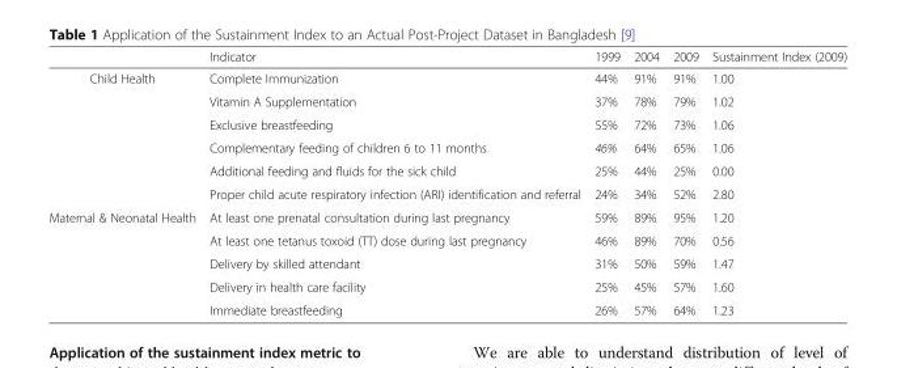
<table><thead><tr><td></td><td>Indicator</td><td>1999</td><td>2004</td><td>2009</td><td>Sustainment Index (2009)</td></tr></thead><tbody><tr><td rowspan="6">Child Health</td><td>Complete Immunization</td><td>44%</td><td>91%</td><td>91%</td><td>1.00</td></tr><tr><td>Vitamin A Supplementation</td><td>37%</td><td>78%</td><td>79%</td><td>1.02</td></tr><tr><td>Exclusive breastfeeding</td><td>55%</td><td>72%</td><td>73%</td><td>1.06</td></tr><tr><td>Complementary feeding of children 6 to 11 months</td><td>46%</td><td>64%</td><td>65%</td><td>1.06</td></tr><tr><td>Additional feeding and fluids for the sick child</td><td>25%</td><td>44%</td><td>25%</td><td>0.00</td></tr><tr><td>Proper child acute respiratory infection (ARI) identification and referral</td><td>24%</td><td>34%</td><td>52%</td><td>2.80</td></tr><tr><td rowspan="5">Maternal &amp; Neonatal Health</td><td>At least one prenatal consultation during last pregnancy</td><td>59%</td><td>89%</td><td>95%</td><td>1.20</td></tr><tr><td>At least one tetanus toxoid (TT) dose during last pregnancy</td><td>46%</td><td>89%</td><td>70%</td><td>0.56</td></tr><tr><td>Delivery by skilled attendant</td><td>31%</td><td>50%</td><td>59%</td><td>1.47</td></tr><tr><td>Delivery in health care facility</td><td>25%</td><td>45%</td><td>57%</td><td>1.60</td></tr><tr><td>Immediate breastfeeding</td><td>26%</td><td>57%</td><td>64%</td><td>1.23</td></tr></tbody></table>